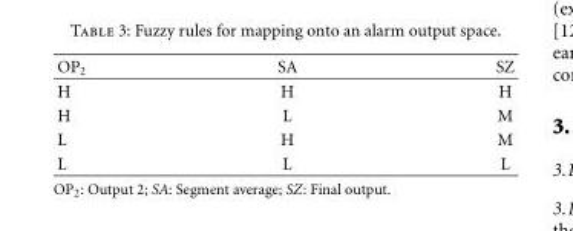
<table><thead><tr><td>OP<sub>2</sub></td><td>SA</td><td>SZ</td></tr></thead><tbody><tr><td>H</td><td>H</td><td>H</td></tr><tr><td>H</td><td>L</td><td>M</td></tr><tr><td>L</td><td>H</td><td>M</td></tr><tr><td>L</td><td>L</td><td>L</td></tr></tbody></table>